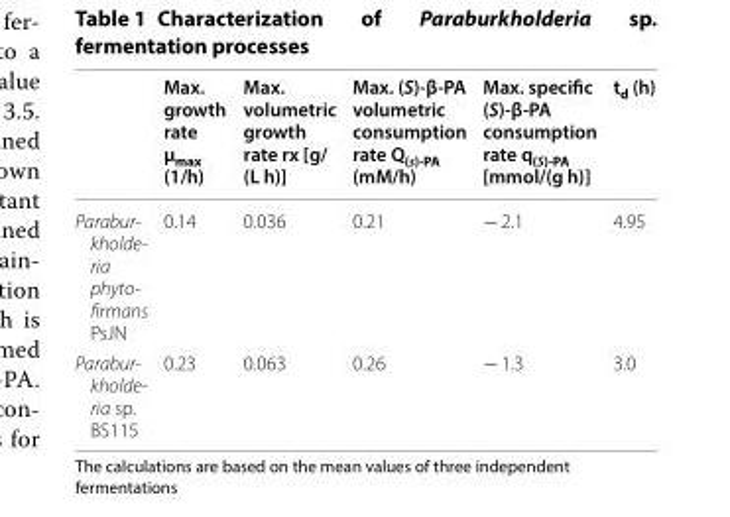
<table><thead><tr><td></td><td>Max. growth rate µ<sub>max</sub> (1/h)</td><td>Max. volumetric growth rate rx [g/ (L h)]</td><td>Max. (S)‑β‑PA volumetric consumption rate Q<sub>(s)-PA</sub> (mM/h)</td><td>Max. specific (S)‑β‑PA consumption rate q<sub>(S)-PA</sub> [mmol/(g h)]</td><td>t<sub>d</sub> (h)</td></tr></thead><tbody><tr><td>Parabur- kholde- ria phyto- firmans PsJN</td><td>0.14</td><td>0.036</td><td>0.21</td><td>− 2.1</td><td>4.95</td></tr><tr><td>Parabur- kholde- ria sp. BS115</td><td>0.23</td><td>0.063</td><td>0.26</td><td>− 1.3</td><td>3.0</td></tr></tbody></table>